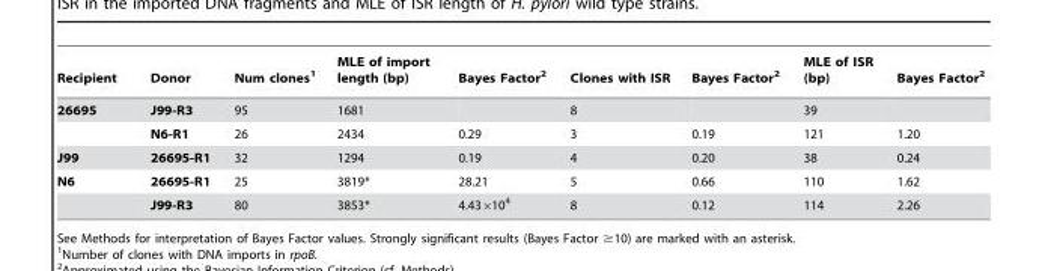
<table><thead><tr><td>Recipient</td><td>Donor</td><td>Num clones<sup>1</sup></td><td>MLE of import length (bp)</td><td>Bayes Factor<sup>2</sup></td><td>Clones with ISR</td><td>Bayes Factor<sup>2</sup></td><td>MLE of ISR (bp)</td><td>Bayes Factor<sup>2</sup></td></tr></thead><tbody><tr><td rowspan="2">26695</td><td>J99-R3</td><td>95</td><td>1681</td><td></td><td>8</td><td></td><td>39</td><td></td></tr><tr><td>N6-R1</td><td>26</td><td>2434</td><td>0.29</td><td>3</td><td>0.19</td><td>121</td><td>1.20</td></tr><tr><td>J99</td><td>26695-R1</td><td>32</td><td>1294</td><td>0.19</td><td>4</td><td>0.20</td><td>38</td><td>0.24</td></tr><tr><td rowspan="2">N6</td><td>26695-R1</td><td>25</td><td>3819*</td><td>28.21</td><td>5</td><td>0.66</td><td>110</td><td>1.62</td></tr><tr><td>J99-R3</td><td>80</td><td>3853*</td><td>4.43×10<sup>4</sup></td><td>8</td><td>0.12</td><td>114</td><td>2.26</td></tr></tbody></table>